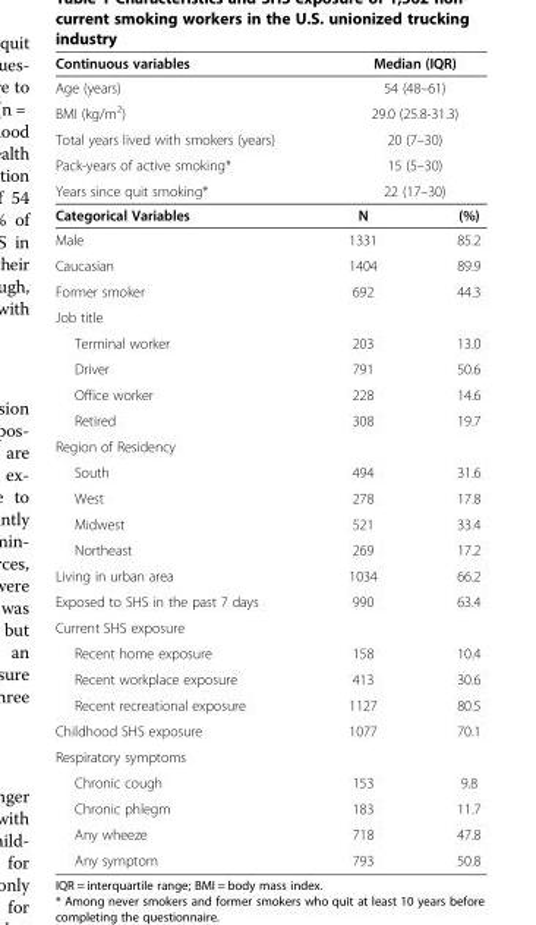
<table><thead><tr><td>Continuous variables</td><td colspan="2">Median (IQR)</td></tr></thead><tbody><tr><td>Age (years)</td><td colspan="2">54 (48–61)</td></tr><tr><td>BMI (kg/m<sup>2</sup>)</td><td colspan="2">29.0 (25.8-31.3)</td></tr><tr><td>Total years lived with smokers (years)</td><td colspan="2">20 (7–30)</td></tr><tr><td>Pack-years of active smoking*</td><td colspan="2">15 (5–30)</td></tr><tr><td>Years since quit smoking*</td><td colspan="2">22 (17–30)</td></tr><tr><td>Categorical Variables</td><td>N</td><td>(%)</td></tr><tr><td>Male</td><td>1331</td><td>85.2</td></tr><tr><td>Caucasian</td><td>1404</td><td>89.9</td></tr><tr><td>Former smoker</td><td>692</td><td>44.3</td></tr><tr><td colspan="3">Job title</td></tr><tr><td>Terminal worker</td><td>203</td><td>13.0</td></tr><tr><td>Driver</td><td>791</td><td>50.6</td></tr><tr><td>Office worker</td><td>228</td><td>14.6</td></tr><tr><td>Retired</td><td>308</td><td>19.7</td></tr><tr><td colspan="3">Region of Residency</td></tr><tr><td>South</td><td>494</td><td>31.6</td></tr><tr><td>West</td><td>278</td><td>17.8</td></tr><tr><td>Midwest</td><td>521</td><td>33.4</td></tr><tr><td>Northeast</td><td>269</td><td>17.2</td></tr><tr><td>Living in urban area</td><td>1034</td><td>66.2</td></tr><tr><td>Exposed to SHS in the past 7 days</td><td>990</td><td>63.4</td></tr><tr><td colspan="3">Current SHS exposure</td></tr><tr><td>Recent home exposure</td><td>158</td><td>10.4</td></tr><tr><td>Recent workplace exposure</td><td>413</td><td>30.6</td></tr><tr><td>Recent recreational exposure</td><td>1127</td><td>80.5</td></tr><tr><td>Childhood SHS exposure</td><td>1077</td><td>70.1</td></tr><tr><td colspan="3">Respiratory symptoms</td></tr><tr><td>Chronic cough</td><td>153</td><td>9.8</td></tr><tr><td>Chronic phlegm</td><td>183</td><td>11.7</td></tr><tr><td>Any wheeze</td><td>718</td><td>47.8</td></tr><tr><td>Any symptom</td><td>793</td><td>50.8</td></tr></tbody></table>